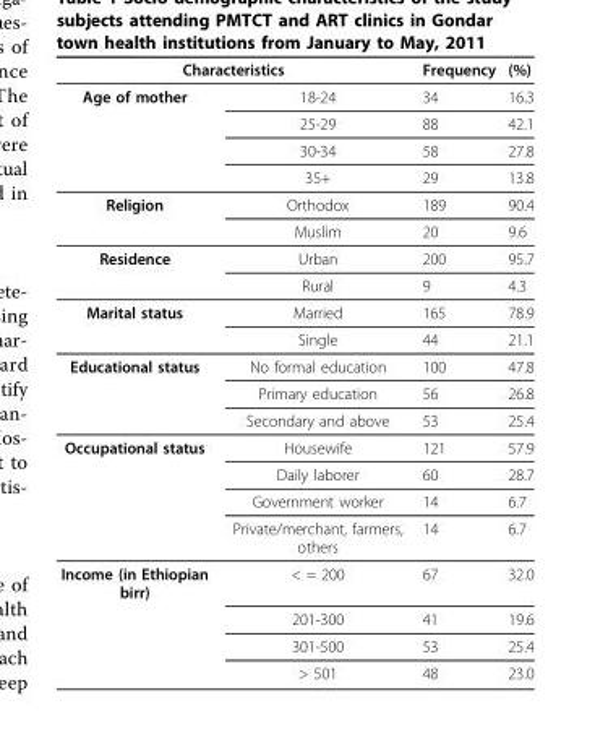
<table><thead><tr><td colspan="2">Characteristics</td><td rowspan="2">Frequency 34</td><td rowspan="2">(%) 16.3</td></tr><tr><td>Age of mother</td><td>18-24</td></tr></thead><tbody><tr><td></td><td>25-29</td><td>88</td><td>42.1</td></tr><tr><td></td><td>30-34</td><td>58</td><td>27.8</td></tr><tr><td></td><td>35+</td><td>29</td><td>13.8</td></tr><tr><td rowspan="2">Religion</td><td>Orthodox</td><td>189</td><td>90.4</td></tr><tr><td>Muslim</td><td>20</td><td>9.6</td></tr><tr><td rowspan="2">Residence</td><td>Urban</td><td>200</td><td>95.7</td></tr><tr><td>Rural</td><td>9</td><td>4.3</td></tr><tr><td rowspan="2">Marital status</td><td>Married</td><td>165</td><td>78.9</td></tr><tr><td>Single</td><td>44</td><td>21.1</td></tr><tr><td rowspan="3">Educational status</td><td>No formal education</td><td>100</td><td>47.8</td></tr><tr><td>Primary education</td><td>56</td><td>26.8</td></tr><tr><td>Secondary and above</td><td>53</td><td>25.4</td></tr><tr><td rowspan="4">Occupational status</td><td>Housewife</td><td>121</td><td>57.9</td></tr><tr><td>Daily laborer</td><td>60</td><td>28.7</td></tr><tr><td>Government worker</td><td>14</td><td>6.7</td></tr><tr><td>Private/merchant, farmers, others</td><td>14</td><td>6.7</td></tr><tr><td rowspan="4">Income (in Ethiopian birr)</td><td>&lt; = 200</td><td>67</td><td>32.0</td></tr><tr><td>201-300</td><td>41</td><td>19.6</td></tr><tr><td>301-500</td><td>53</td><td>25.4</td></tr><tr><td>&gt; 501</td><td>48</td><td>23.0</td></tr></tbody></table>